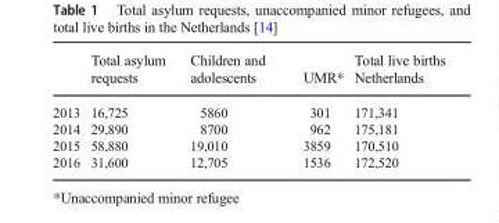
<table><thead><tr><td></td><td>Total asylum requests</td><td>Children and adolescents</td><td>UMR*</td><td>Total live births Netherlands</td></tr></thead><tbody><tr><td>2013</td><td>16,725</td><td>5860</td><td>301</td><td>171,341</td></tr><tr><td>2014</td><td>29,890</td><td>8700</td><td>962</td><td>175,181</td></tr><tr><td>2015</td><td>58,880</td><td>19,010</td><td>3859</td><td>170,510</td></tr><tr><td>2016</td><td>31,600</td><td>12,705</td><td>1536</td><td>172,520</td></tr></tbody></table>